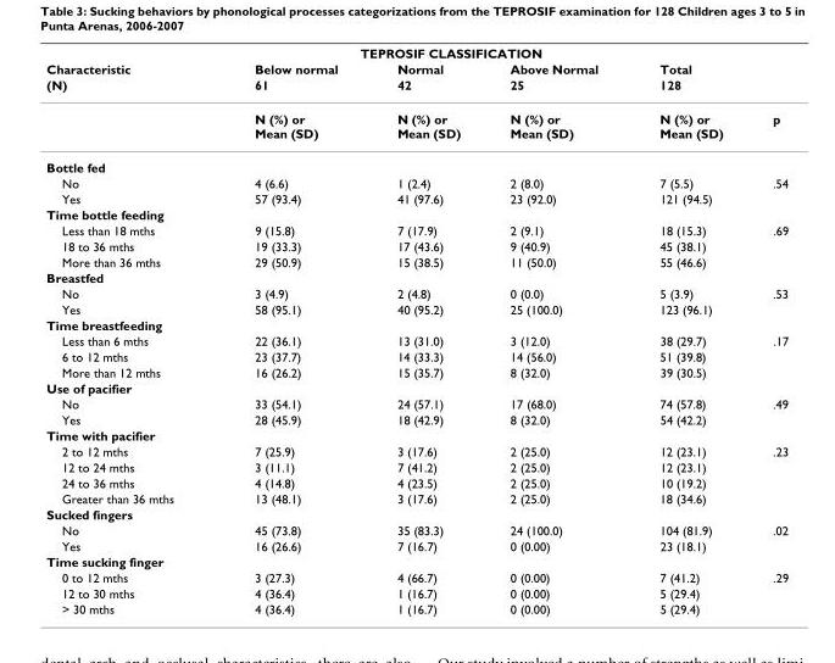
<table><thead><tr><td rowspan="3">Characteristic (N)</td><td colspan="3">TEPROSIF CLASSIFICATION</td><td rowspan="3">Total 128</td><td rowspan="3"></td></tr><tr><td rowspan="2">Below normal 61</td><td rowspan="2">Normal 42</td><td rowspan="2">Above Normal 25</td></tr><tr></tr></thead><tbody><tr><td></td><td>N (%) or Mean (SD)</td><td>N (%) or Mean (SD)</td><td>N (%) or Mean (SD)</td><td>N (%) or Mean (SD)</td><td>p</td></tr><tr><td colspan="6">Bottle fed</td></tr><tr><td>No</td><td>4 (6.6)</td><td>1 (2.4)</td><td>2 (8.0)</td><td>7 (5.5)</td><td>.54</td></tr><tr><td>Yes</td><td>57 (93.4)</td><td>41 (97.6)</td><td>23 (92.0)</td><td>121 (94.5)</td><td></td></tr><tr><td colspan="6">Time bottle feeding</td></tr><tr><td>Less than 18 mths</td><td>9 (15.8)</td><td>7 (17.9)</td><td>2 (9.1)</td><td>18 (15.3)</td><td>.69</td></tr><tr><td>18 to 36 mths</td><td>19 (33.3)</td><td>17 (43.6)</td><td>9 (40.9)</td><td>45 (38.1)</td><td></td></tr><tr><td>More than 36 mths</td><td>29 (50.9)</td><td>15 (38.5)</td><td>11 (50.0)</td><td>55 (46.6)</td><td></td></tr><tr><td colspan="6">Breastfed</td></tr><tr><td>No</td><td>3 (4.9)</td><td>2 (4.8)</td><td>0 (0.0)</td><td>5 (3.9)</td><td>.53</td></tr><tr><td>Yes</td><td>58 (95.1)</td><td>40 (95.2)</td><td>25 (100.0)</td><td>123 (96.1)</td><td></td></tr><tr><td colspan="6">Time breastfeeding</td></tr><tr><td>Less than 6 mths</td><td>22 (36.1)</td><td>13 (31.0)</td><td>3 (12.0)</td><td>38 (29.7)</td><td>.17</td></tr><tr><td>6 to 12 mths</td><td>23 (37.7)</td><td>14 (33.3)</td><td>14 (56.0)</td><td>51 (39.8)</td><td></td></tr><tr><td>More than 12 mths</td><td>16 (26.2)</td><td>15 (35.7)</td><td>8 (32.0)</td><td>39 (30.5)</td><td></td></tr><tr><td colspan="6">Use of pacifier</td></tr><tr><td>No</td><td>33 (54.1)</td><td>24 (57.1)</td><td>17 (68.0)</td><td>74 (57.8)</td><td>.49</td></tr><tr><td>Yes</td><td>28 (45.9)</td><td>18 (42.9)</td><td>8 (32.0)</td><td>54 (42.2)</td><td></td></tr><tr><td colspan="6">Time with pacifier</td></tr><tr><td>2 to 12 mths</td><td>7 (25.9)</td><td>3 (17.6)</td><td>2 (25.0)</td><td>12 (23.1)</td><td>.23</td></tr><tr><td>12 to 24 mths</td><td>3 (11.1)</td><td>7 (41.2)</td><td>2 (25.0)</td><td>12 (23.1)</td><td></td></tr><tr><td>24 to 36 mths</td><td>4 (14.8)</td><td>4 (23.5)</td><td>2 (25.0)</td><td>10 (19.2)</td><td></td></tr><tr><td>Greater than 36 mths</td><td>13 (48.1)</td><td>3 (17.6)</td><td>2 (25.0)</td><td>18 (34.6)</td><td></td></tr><tr><td colspan="6">Sucked fingers</td></tr><tr><td>No</td><td>45 (73.8)</td><td>35 (83.3)</td><td>24 (100.0)</td><td>104 (81.9)</td><td>.02</td></tr><tr><td>Yes</td><td>16 (26.6)</td><td>7 (16.7)</td><td>0 (0.00)</td><td>23 (18.1)</td><td></td></tr><tr><td colspan="6">Time sucking finger</td></tr><tr><td>0 to 12 mths</td><td>3 (27.3)</td><td>4 (66.7)</td><td>0 (0.00)</td><td>7 (41.2)</td><td>.29</td></tr><tr><td>12 to 30 mths</td><td>4 (36.4)</td><td>1 (16.7)</td><td>0 (0.00)</td><td>5 (29.4)</td><td></td></tr><tr><td>&gt; 30 mths</td><td>4 (36.4)</td><td>1 (16.7)</td><td>0 (0.00)</td><td>5 (29.4)</td><td></td></tr></tbody></table>